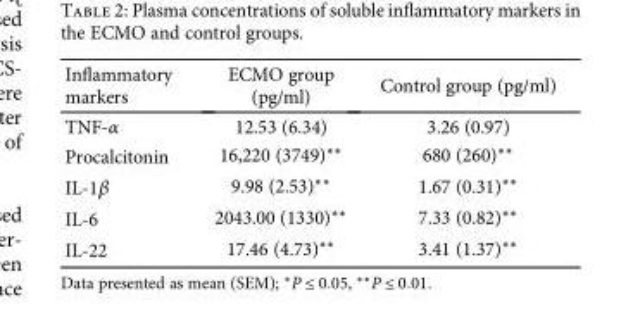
<table><thead><tr><td>Inflammatory markers</td><td>ECMO group (pg/ml)</td><td>Control group (pg/ml)</td></tr></thead><tbody><tr><td>TNF-α</td><td>12.53 (6.34)</td><td>3.26 (0.97)</td></tr><tr><td>Procalcitonin</td><td>16,220 (3749)∗∗</td><td>680 (260)∗∗</td></tr><tr><td>IL-1β</td><td>9.98 (2.53)∗∗</td><td>1.67 (0.31)∗∗</td></tr><tr><td>IL-6</td><td>2043.00 (1330)∗∗</td><td>7.33 (0.82)∗∗</td></tr><tr><td>IL-22</td><td>17.46 (4.73)∗∗</td><td>3.41 (1.37)∗∗</td></tr></tbody></table>